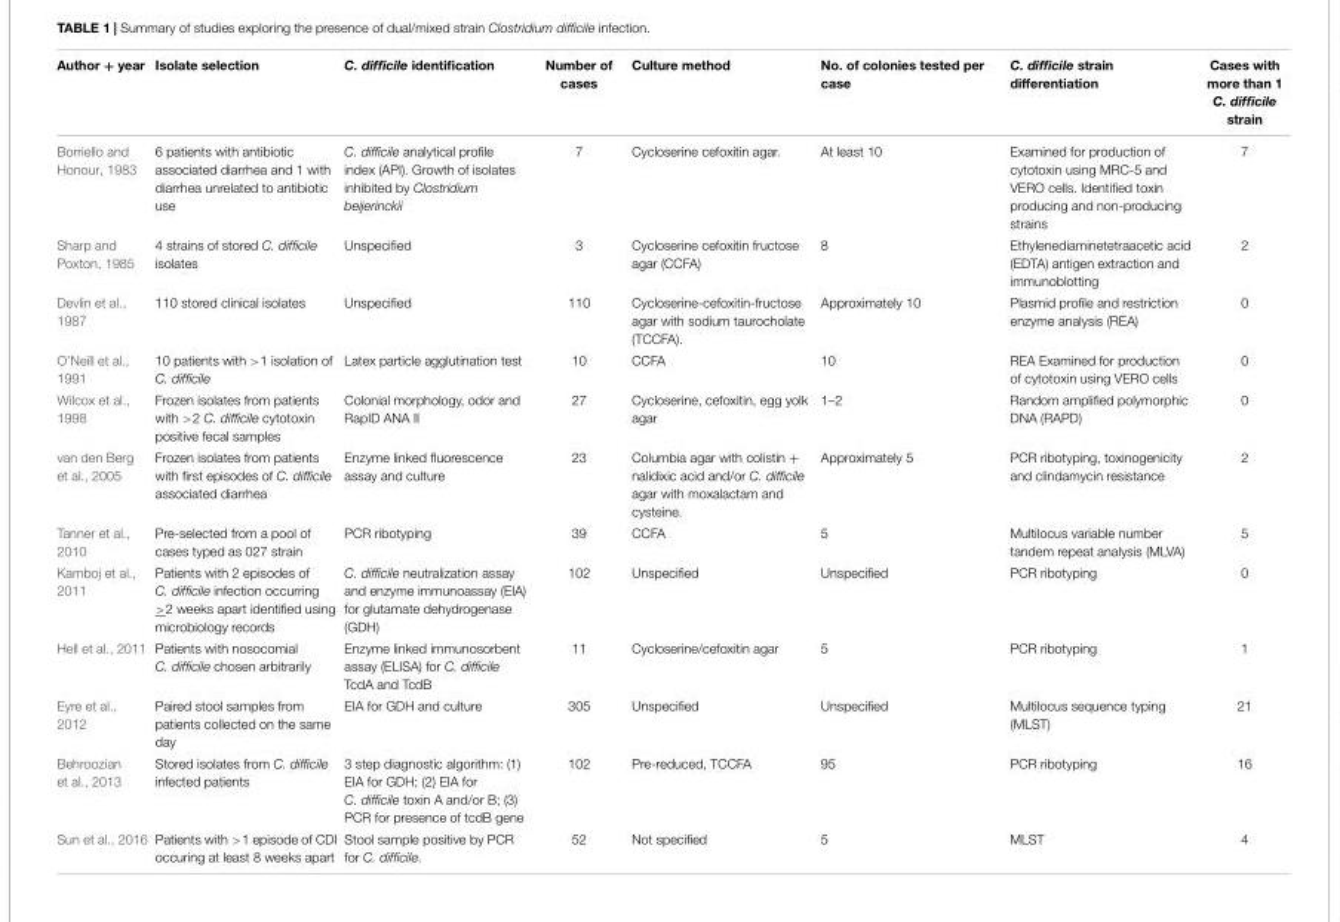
<table><thead><tr><td>Author + year</td><td>Isolate selection</td><td>C. difficile identification</td><td>Number of cases</td><td>Culture method</td><td>No. of colonies tested per case</td><td>C. difficile strain differentiation</td><td>Cases with more than 1 C. difficile strain</td></tr></thead><tbody><tr><td>Borriello and Honour, 1983</td><td>6 patients with antibiotic associated diarrhea and 1 with diarrhea unrelated to antibiotic use</td><td>C. difficile analytical profile index (API). Growth of isolates inhibited by Clostridium beijerinckii</td><td>7</td><td>Cycloserine cefoxitin agar.</td><td>At least 10</td><td>Examined for production of cytotoxin using MRC-5 and VERO cells. Identified toxin producing and non-producing strains</td><td>7</td></tr><tr><td>Sharp and Poxton, 1985</td><td>4 strains of stored C. difficile isolates</td><td>Unspecified</td><td>3</td><td>Cycloserine cefoxitin fructose agar (CCFA)</td><td>8</td><td>Ethylenediaminetetraacetic acid (EDTA) antigen extraction and immunoblotting</td><td>2</td></tr><tr><td>Devlin et al., 1987</td><td>110 stored clinical isolates</td><td>Unspecified</td><td>110</td><td>Cycloserine-cefoxitin-fructose agar with sodium taurocholate (TCCFA).</td><td>Approximately 10</td><td>Plasmid profile and restriction enzyme analysis (REA)</td><td>0</td></tr><tr><td>O’Neill et al., 1991</td><td>10 patients with &gt;1 isolation of C. difficile</td><td>Latex particle agglutination test</td><td>10</td><td>CCFA</td><td>10</td><td>REA Examined for production of cytotoxin using VERO cells</td><td>0</td></tr><tr><td>Wilcox et al., 1998</td><td>Frozen isolates from patients with &gt;2 C. difficile cytotoxin positive fecal samples</td><td>Colonial morphology, odor and RapID ANA II</td><td>27</td><td>Cycloserine, cefoxitin, egg yolk agar</td><td>1–2</td><td>Random amplified polymorphic DNA (RAPD)</td><td>0</td></tr><tr><td>van den Berg et al., 2005</td><td>Frozen isolates from patients with first episodes of C. difficile associated diarrhea</td><td>Enzyme linked fluorescence assay and culture</td><td>23</td><td>Columbia agar with colistin + nalidixic acid and/or C. difficile agar with moxalactam and cysteine.</td><td>Approximately 5</td><td>PCR ribotyping, toxinogenicity and clindamycin resistance</td><td>2</td></tr><tr><td>Tanner et al., 2010</td><td>Pre-selected from a pool of cases typed as 027 strain</td><td>PCR ribotyping</td><td>39</td><td>CCFA</td><td>5</td><td>Multilocus variable number tandem repeat analysis (MLVA)</td><td>5</td></tr><tr><td>Kamboj et al., 2011</td><td>Patients with 2 episodes of C. difficile infection occurring &gt;2 weeks apart identified using microbiology records</td><td>C. difficile neutralization assay and enzyme immunoassay (EIA) for glutamate dehydrogenase (GDH)</td><td>102</td><td>Unspecified</td><td>Unspecified</td><td>PCR ribotyping</td><td>0</td></tr><tr><td>Hell et al., 2011</td><td>Patients with nosocomial C. difficile chosen arbitrarily</td><td>Enzyme linked immunosorbent assay (ELISA) for C. difficile TcdA and TcdB</td><td>11</td><td>Cycloserine/cefoxitin agar</td><td>5</td><td>PCR ribotyping</td><td>1</td></tr><tr><td>Eyre et al., 2012</td><td>Paired stool samples from patients collected on the same day</td><td>EIA for GDH and culture</td><td>305</td><td>Unspecified</td><td>Unspecified</td><td>Multilocus sequence typing (MLST)</td><td>21</td></tr><tr><td>Behroozian et al., 2013</td><td>Stored isolates from C. difficile infected patients</td><td>3 step diagnostic algorithm: (1) EIA for GDH; (2) EIA for C. difficile toxin A and/or B; (3) PCR for presence of tcdB gene</td><td>102</td><td>Pre-reduced, TCCFA</td><td>95</td><td>PCR ribotyping</td><td>16</td></tr><tr><td>Sun et al., 2016</td><td>Patients with &gt;1 episode of CDI occuring at least 8 weeks apart</td><td>Stool sample positive by PCR for C. difficile.</td><td>52</td><td>Not specified</td><td>5</td><td>MLST</td><td>4</td></tr></tbody></table>